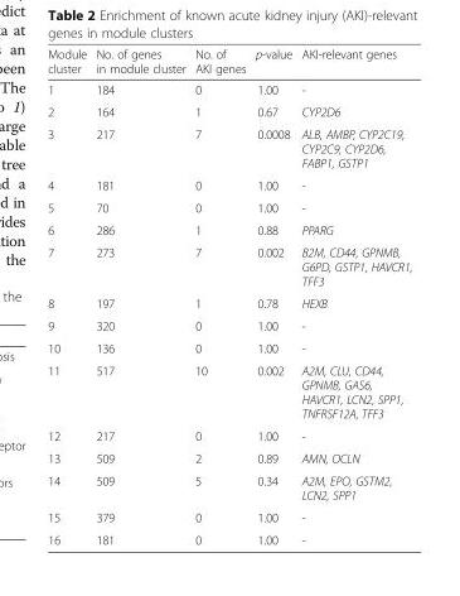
<table><thead><tr><td>Module cluster</td><td>No. of genes in module cluster</td><td>No. of AKI genes</td><td>p-value</td><td>AKI-relevant genes</td></tr></thead><tbody><tr><td>1</td><td>184</td><td>0</td><td>1.00</td><td>-</td></tr><tr><td>2</td><td>164</td><td>1</td><td>0.67</td><td>CYP2D6</td></tr><tr><td>3</td><td>217</td><td>7</td><td>0.0008</td><td>ALB, AMBP, CYP2C19, CYP2C9, CYP2D6, FABP1, GSTP1</td></tr><tr><td>4</td><td>181</td><td>0</td><td>1.00</td><td>-</td></tr><tr><td>5</td><td>70</td><td>0</td><td>1.00</td><td>-</td></tr><tr><td>6</td><td>286</td><td>1</td><td>0.88</td><td>PPARG</td></tr><tr><td>7</td><td>273</td><td>7</td><td>0.002</td><td>B2M, CD44, GPNMB, G6PD, GSTP1, HAVCR1, TFF3</td></tr><tr><td>8</td><td>197</td><td>1</td><td>0.78</td><td>HEXB</td></tr><tr><td>9</td><td>320</td><td>0</td><td>1.00</td><td>-</td></tr><tr><td>10</td><td>136</td><td>0</td><td>1.00</td><td>-</td></tr><tr><td>11</td><td>517</td><td>10</td><td>0.002</td><td>A2M, CLU, CD44, GPNMB, GAS6, HAVCR1, LCN2, SPP1, TNFRSF12A, TFF3</td></tr><tr><td>12</td><td>217</td><td>0</td><td>1.00</td><td>-</td></tr><tr><td>13</td><td>509</td><td>2</td><td>0.89</td><td>AMN, OCLN</td></tr><tr><td>14</td><td>509</td><td>5</td><td>0.34</td><td>A2M, EPO, GSTM2, LCN2, SPP1</td></tr><tr><td>15</td><td>379</td><td>0</td><td>1.00</td><td>-</td></tr><tr><td>16</td><td>181</td><td>0</td><td>1.00</td><td>-</td></tr></tbody></table>